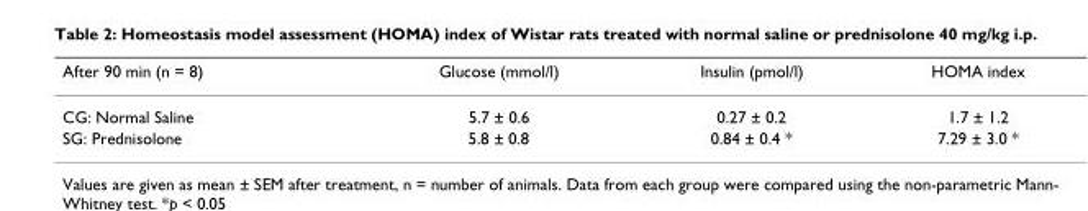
<table><thead><tr><td>After 90 min (n = 8)</td><td>Glucose (mmol/l)</td><td>Insulin (pmol/l)</td><td>HOMA index</td></tr></thead><tbody><tr><td>CG: Normal Saline</td><td>5.7 ± 0.6</td><td>0.27 ± 0.2</td><td>1.7 ± 1.2</td></tr><tr><td>SG: Prednisolone</td><td>5.8 ± 0.8</td><td>0.84 ± 0.4 *</td><td>7.29 ± 3.0 *</td></tr></tbody></table>